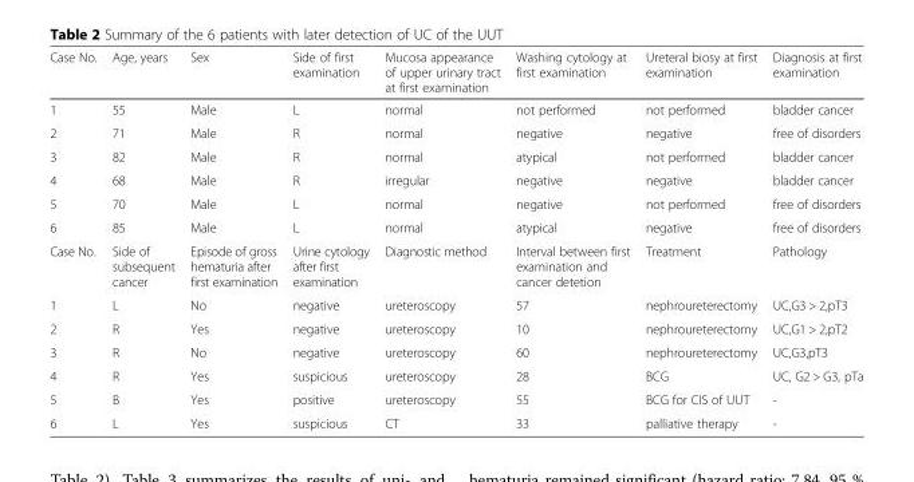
<table><thead><tr><td>Case No.</td><td>Age, years</td><td>Sex</td><td>Side of first examination</td><td>Mucosa appearance of upper urinary tract at first examination</td><td>Washing cytology at first examination</td><td>Ureteral biosy at first examination</td><td>Diagnosis at first examination</td></tr></thead><tbody><tr><td>1</td><td>55</td><td>Male</td><td>L</td><td>normal</td><td>not performed</td><td>not performed</td><td>bladder cancer</td></tr><tr><td>2</td><td>71</td><td>Male</td><td>R</td><td>normal</td><td>negative</td><td>negative</td><td>free of disorders</td></tr><tr><td>3</td><td>82</td><td>Male</td><td>R</td><td>normal</td><td>atypical</td><td>not performed</td><td>bladder cancer</td></tr><tr><td>4</td><td>68</td><td>Male</td><td>R</td><td>irregular</td><td>negative</td><td>negative</td><td>bladder cancer</td></tr><tr><td>5</td><td>70</td><td>Male</td><td>L</td><td>normal</td><td>negative</td><td>not performed</td><td>free of disorders</td></tr><tr><td>6</td><td>85</td><td>Male</td><td>L</td><td>normal</td><td>atypical</td><td>negative</td><td>free of disorders</td></tr><tr><td>Case No.</td><td>Side of subsequent cancer</td><td>Episode of gross hematuria after first examination</td><td>Urine cytology after first examination</td><td>Diagnostic method</td><td>Interval between first examination and cancer detetion</td><td>Treatment</td><td>Pathology</td></tr><tr><td>1</td><td>L</td><td>No</td><td>negative</td><td>ureteroscopy</td><td>57</td><td>nephroureterectomy</td><td>UC,G3 &gt; 2,pT3</td></tr><tr><td>2</td><td>R</td><td>Yes</td><td>negative</td><td>ureteroscopy</td><td>10</td><td>nephroureterectomy</td><td>UC,G1 &gt; 2,pT2</td></tr><tr><td>3</td><td>R</td><td>No</td><td>negative</td><td>ureteroscopy</td><td>60</td><td>nephroureterectomy</td><td>UC,G3,pT3</td></tr><tr><td>4</td><td>R</td><td>Yes</td><td>suspicious</td><td>ureteroscopy</td><td>28</td><td>BCG</td><td>UC, G2 &gt; G3, pTa</td></tr><tr><td>5</td><td>B</td><td>Yes</td><td>positive</td><td>ureteroscopy</td><td>55</td><td>BCG for CIS of UUT</td><td>-</td></tr><tr><td>6</td><td>L</td><td>Yes</td><td>suspicious</td><td>CT</td><td>33</td><td>palliative therapy</td><td>-</td></tr></tbody></table>